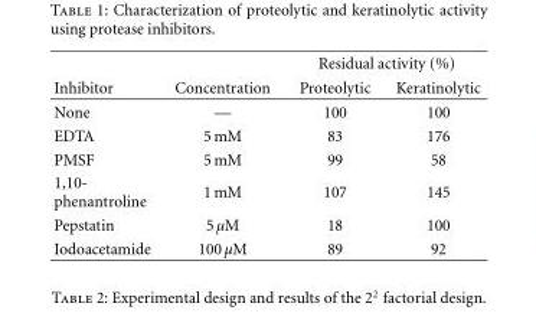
<table><thead><tr><td rowspan="2">Inhibitor</td><td rowspan="2">Concentration</td><td colspan="2">Residual activity (%)</td></tr><tr><td>Proteolytic</td><td>Keratinolytic</td></tr></thead><tbody><tr><td>None</td><td>—</td><td>100</td><td>100</td></tr><tr><td>EDTA</td><td>5 mM</td><td>83</td><td>176</td></tr><tr><td>PMSF</td><td>5 mM</td><td>99</td><td>58</td></tr><tr><td>1,10- phenantroline</td><td>1 mM</td><td>107</td><td>145</td></tr><tr><td>Pepstatin</td><td>5 μM</td><td>18</td><td>100</td></tr><tr><td>Iodoacetamide</td><td>100 μM</td><td>89</td><td>92</td></tr></tbody></table>